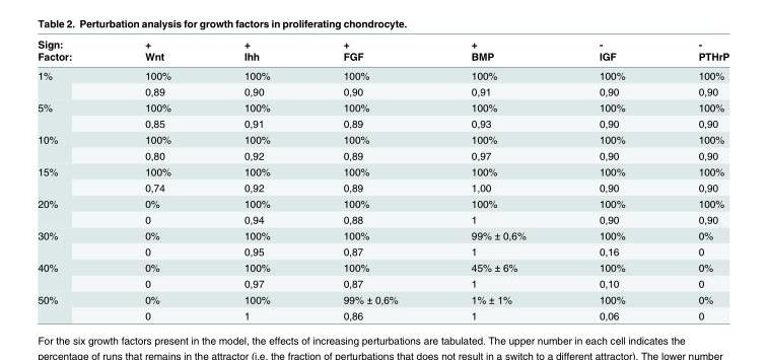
<table><thead><tr><td rowspan="2">Sign: Factor:</td><td rowspan="2">+ Wnt</td><td rowspan="2">+ Ihh</td><td rowspan="2">+ FGF</td><td rowspan="2">+ BMP</td><td rowspan="2">- IGF</td><td rowspan="2">- PTHrP</td></tr><tr></tr></thead><tbody><tr><td rowspan="2">1%</td><td>100%</td><td>100%</td><td>100%</td><td>100%</td><td>100%</td><td>100%</td></tr><tr><td>0,89</td><td>0,90</td><td>0,90</td><td>0,91</td><td>0,90</td><td>0,90</td></tr><tr><td rowspan="2">5%</td><td>100%</td><td>100%</td><td>100%</td><td>100%</td><td>100%</td><td>100%</td></tr><tr><td>0,85</td><td>0,91</td><td>0,89</td><td>0,93</td><td>0,90</td><td>0,90</td></tr><tr><td rowspan="2">10%</td><td>100%</td><td>100%</td><td>100%</td><td>100%</td><td>100%</td><td>100%</td></tr><tr><td>0,80</td><td>0,92</td><td>0,89</td><td>0,97</td><td>0,90</td><td>0,90</td></tr><tr><td rowspan="2">15%</td><td>100%</td><td>100%</td><td>100%</td><td>100%</td><td>100%</td><td>100%</td></tr><tr><td>0,74</td><td>0,92</td><td>0,89</td><td>1,00</td><td>0,90</td><td>0,90</td></tr><tr><td rowspan="2">20%</td><td>0%</td><td>100%</td><td>100%</td><td>100%</td><td>100%</td><td>100%</td></tr><tr><td>0</td><td>0,94</td><td>0,88</td><td>1</td><td>0,90</td><td>0,90</td></tr><tr><td rowspan="2">30%</td><td>0%</td><td>100%</td><td>100%</td><td>99% ± 0,6%</td><td>100%</td><td>0%</td></tr><tr><td>0</td><td>0,95</td><td>0,87</td><td>1</td><td>0,16</td><td>0</td></tr><tr><td rowspan="2">40%</td><td>0%</td><td>100%</td><td>100%</td><td>45% ± 6%</td><td>100%</td><td>0%</td></tr><tr><td>0</td><td>0,97</td><td>0,87</td><td>1</td><td>0,10</td><td>0</td></tr><tr><td rowspan="2">50%</td><td>0%</td><td>100%</td><td>99% ± 0,6%</td><td>1% ± 1%</td><td>100%</td><td>0%</td></tr><tr><td>0</td><td>1</td><td>0,86</td><td>1</td><td>0,06</td><td>0</td></tr></tbody></table>